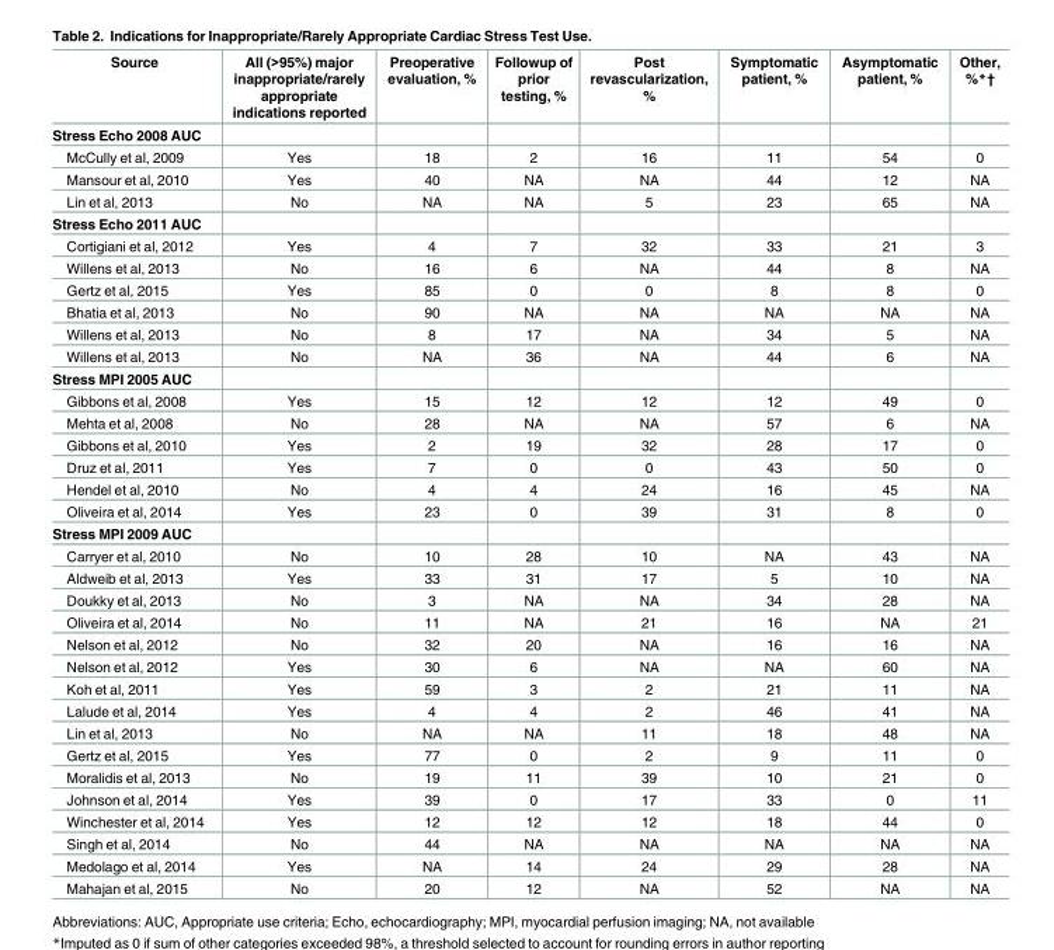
<table><thead><tr><td>Source</td><td>All (&gt;95%) major inappropriate/rarely appropriate indications reported</td><td>Preoperative evaluation, %</td><td>Followup of prior testing, %</td><td>Post revascularization, %</td><td>Symptomatic patient, %</td><td>Asymptomatic patient, %</td><td>Other, %*†</td></tr></thead><tbody><tr><td colspan="8">Stress Echo 2008 AUC</td></tr><tr><td>McCully et al, 2009</td><td>Yes</td><td>18</td><td>2</td><td>16</td><td>11</td><td>54</td><td>0</td></tr><tr><td>Mansour et al, 2010</td><td>Yes</td><td>40</td><td>NA</td><td>NA</td><td>44</td><td>12</td><td>NA</td></tr><tr><td>Lin et al, 2013</td><td>No</td><td>NA</td><td>NA</td><td>5</td><td>23</td><td>65</td><td>NA</td></tr><tr><td colspan="8">Stress Echo 2011 AUC</td></tr><tr><td>Cortigiani et al, 2012</td><td>Yes</td><td>4</td><td>7</td><td>32</td><td>33</td><td>21</td><td>3</td></tr><tr><td>Willens et al, 2013</td><td>No</td><td>16</td><td>6</td><td>NA</td><td>44</td><td>8</td><td>NA</td></tr><tr><td>Gertz et al, 2015</td><td>Yes</td><td>85</td><td>0</td><td>0</td><td>8</td><td>8</td><td>0</td></tr><tr><td>Bhatia et al, 2013</td><td>No</td><td>90</td><td>NA</td><td>NA</td><td>NA</td><td>NA</td><td>NA</td></tr><tr><td>Willens et al, 2013</td><td>No</td><td>8</td><td>17</td><td>NA</td><td>34</td><td>5</td><td>NA</td></tr><tr><td>Willens et al, 2013</td><td>No</td><td>NA</td><td>36</td><td>NA</td><td>44</td><td>6</td><td>NA</td></tr><tr><td colspan="8">Stress MPI 2005 AUC</td></tr><tr><td>Gibbons et al, 2008</td><td>Yes</td><td>15</td><td>12</td><td>12</td><td>12</td><td>49</td><td>0</td></tr><tr><td>Mehta et al, 2008</td><td>No</td><td>28</td><td>NA</td><td>NA</td><td>57</td><td>6</td><td>NA</td></tr><tr><td>Gibbons et al, 2010</td><td>Yes</td><td>2</td><td>19</td><td>32</td><td>28</td><td>17</td><td>0</td></tr><tr><td>Druz et al, 2011</td><td>Yes</td><td>7</td><td>0</td><td>0</td><td>43</td><td>50</td><td>0</td></tr><tr><td>Hendel et al, 2010</td><td>No</td><td>4</td><td>4</td><td>24</td><td>16</td><td>45</td><td>NA</td></tr><tr><td>Oliveira et al, 2014</td><td>Yes</td><td>23</td><td>0</td><td>39</td><td>31</td><td>8</td><td>0</td></tr><tr><td colspan="8">Stress MPI 2009 AUC</td></tr><tr><td>Carryer et al, 2010</td><td>No</td><td>10</td><td>28</td><td>10</td><td>NA</td><td>43</td><td>NA</td></tr><tr><td>Aldweib et al, 2013</td><td>Yes</td><td>33</td><td>31</td><td>17</td><td>5</td><td>10</td><td>NA</td></tr><tr><td>Doukky et al, 2013</td><td>No</td><td>3</td><td>NA</td><td>NA</td><td>34</td><td>28</td><td>NA</td></tr><tr><td>Oliveira et al, 2014</td><td>No</td><td>11</td><td>NA</td><td>21</td><td>16</td><td>NA</td><td>21</td></tr><tr><td>Nelson et al, 2012</td><td>No</td><td>32</td><td>20</td><td>NA</td><td>16</td><td>16</td><td>NA</td></tr><tr><td>Nelson et al, 2012</td><td>Yes</td><td>30</td><td>6</td><td>NA</td><td>NA</td><td>60</td><td>NA</td></tr><tr><td>Koh et al, 2011</td><td>Yes</td><td>59</td><td>3</td><td>2</td><td>21</td><td>11</td><td>NA</td></tr><tr><td>Lalude et al, 2014</td><td>Yes</td><td>4</td><td>4</td><td>2</td><td>46</td><td>41</td><td>NA</td></tr><tr><td>Lin et al, 2013</td><td>No</td><td>NA</td><td>NA</td><td>11</td><td>18</td><td>48</td><td>NA</td></tr><tr><td>Gertz et al, 2015</td><td>Yes</td><td>77</td><td>0</td><td>2</td><td>9</td><td>11</td><td>0</td></tr><tr><td>Moralidis et al, 2013</td><td>No</td><td>19</td><td>11</td><td>39</td><td>10</td><td>21</td><td>0</td></tr><tr><td>Johnson et al, 2014</td><td>Yes</td><td>39</td><td>0</td><td>17</td><td>33</td><td>0</td><td>11</td></tr><tr><td>Winchester et al, 2014</td><td>Yes</td><td>12</td><td>12</td><td>12</td><td>18</td><td>44</td><td>0</td></tr><tr><td>Singh et al, 2014</td><td>No</td><td>44</td><td>NA</td><td>NA</td><td>NA</td><td>NA</td><td>NA</td></tr><tr><td>Medolago et al, 2014</td><td>Yes</td><td>NA</td><td>14</td><td>24</td><td>29</td><td>28</td><td>NA</td></tr><tr><td>Mahajan et al, 2015</td><td>No</td><td>20</td><td>12</td><td>NA</td><td>52</td><td>NA</td><td>NA</td></tr></tbody></table>